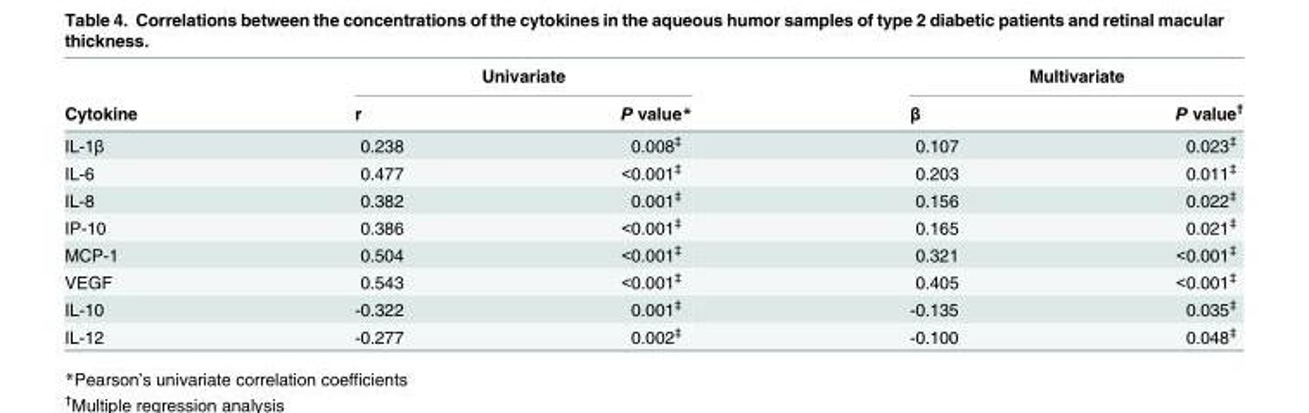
<table><thead><tr><td rowspan="2">Cytokine</td><td colspan="2">Univariate</td><td colspan="2">Multivariate</td></tr><tr><td>r</td><td>P value*</td><td>β</td><td>P value<sup>†</sup></td></tr></thead><tbody><tr><td>IL-1β</td><td>0.238</td><td>0.008<sup>‡</sup></td><td>0.107</td><td>0.023<sup>‡</sup></td></tr><tr><td>IL-6</td><td>0.477</td><td>&lt;0.001<sup>‡</sup></td><td>0.203</td><td>0.011<sup>‡</sup></td></tr><tr><td>IL-8</td><td>0.382</td><td>0.001<sup>‡</sup></td><td>0.156</td><td>0.022<sup>‡</sup></td></tr><tr><td>IP-10</td><td>0.386</td><td>&lt;0.001<sup>‡</sup></td><td>0.165</td><td>0.021<sup>‡</sup></td></tr><tr><td>MCP-1</td><td>0.504</td><td>&lt;0.001<sup>‡</sup></td><td>0.321</td><td>&lt;0.001<sup>‡</sup></td></tr><tr><td>VEGF</td><td>0.543</td><td>&lt;0.001<sup>‡</sup></td><td>0.405</td><td>&lt;0.001<sup>‡</sup></td></tr><tr><td>IL-10</td><td>-0.322</td><td>0.001<sup>‡</sup></td><td>-0.135</td><td>0.035<sup>‡</sup></td></tr><tr><td>IL-12</td><td>-0.277</td><td>0.002<sup>‡</sup></td><td>-0.100</td><td>0.048<sup>‡</sup></td></tr></tbody></table>